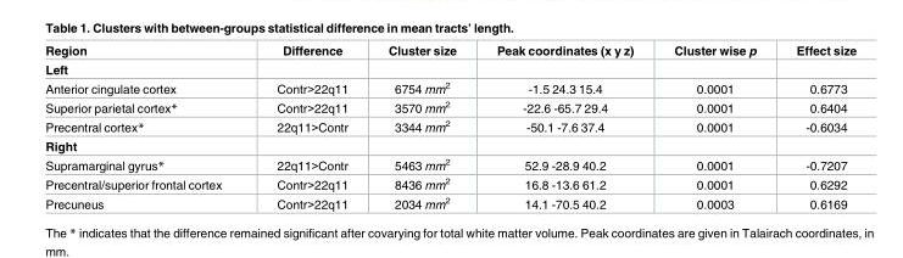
<table><thead><tr><td>Region</td><td>Difference</td><td>Cluster size</td><td>Peak coordinates (x y z)</td><td>Cluster wise p</td><td>Effect size</td></tr></thead><tbody><tr><td colspan="6">Left</td></tr><tr><td>Anterior cingulate cortex</td><td>Contr&gt;22q11</td><td>6754 mm<sup>2</sup></td><td>-1.5 24.3 15.4</td><td>0.0001</td><td>0.6773</td></tr><tr><td>Superior parietal cortex*</td><td>Contr&gt;22q11</td><td>3570 mm<sup>2</sup></td><td>-22.6 -65.7 29.4</td><td>0.0001</td><td>0.6404</td></tr><tr><td>Precentral cortex*</td><td>22q11&gt;Contr</td><td>3344 mm<sup>2</sup></td><td>-50.1 -7.6 37.4</td><td>0.0001</td><td>-0.6034</td></tr><tr><td colspan="6">Right</td></tr><tr><td>Supramarginal gyrus*</td><td>22q11&gt;Contr</td><td>5463 mm<sup>2</sup></td><td>52.9 -28.9 40.2</td><td>0.0001</td><td>-0.7207</td></tr><tr><td>Precentral/superior frontal cortex</td><td>Contr&gt;22q11</td><td>8436 mm<sup>2</sup></td><td>16.8 -13.6 61.2</td><td>0.0001</td><td>0.6292</td></tr><tr><td>Precuneus</td><td>Contr&gt;22q11</td><td>2034 mm<sup>2</sup></td><td>14.1 -70.5 40.2</td><td>0.0003</td><td>0.6169</td></tr></tbody></table>